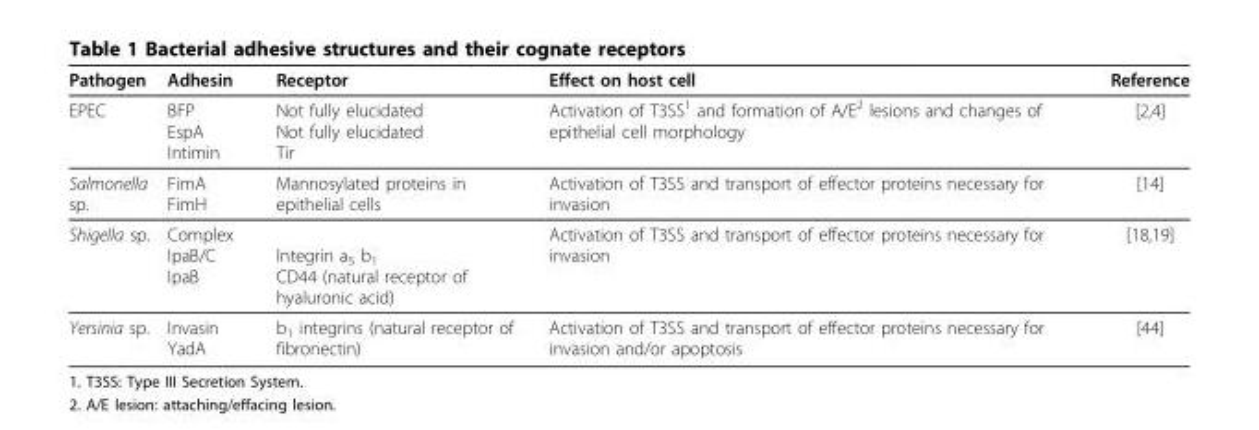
<table><thead><tr><td>Pathogen</td><td>Adhesin</td><td>Receptor</td><td>Effect on host cell</td><td>Reference</td></tr></thead><tbody><tr><td>EPEC</td><td>BFP EspA Intimin</td><td>Not fully elucidated Not fully elucidated Tir</td><td>Activation of T3SS<sup>1</sup> and formation of A/E<sup>2</sup> lesions and changes of epithelial cell morphology</td><td>[2,4]</td></tr><tr><td>Salmonella sp.</td><td>FimA FimH</td><td>Mannosylated proteins in epithelial cells</td><td>Activation of T3SS and transport of effector proteins necessary for invasion</td><td>[14]</td></tr><tr><td>Shigella sp.</td><td>Complex IpaB/C IpaB</td><td>Integrin α<sub>5</sub> β<sub>1</sub> CD44 (natural receptor of hyaluronic acid)</td><td>Activation of T3SS and transport of effector proteins necessary for invasion</td><td>[18,19]</td></tr><tr><td>Yersinia sp.</td><td>Invasin YadA</td><td>β<sub>1</sub> integrins (natural receptor of fibronectin)</td><td>Activation of T3SS and transport of effector proteins necessary for invasion and/or apoptosis</td><td>[44]</td></tr></tbody></table>